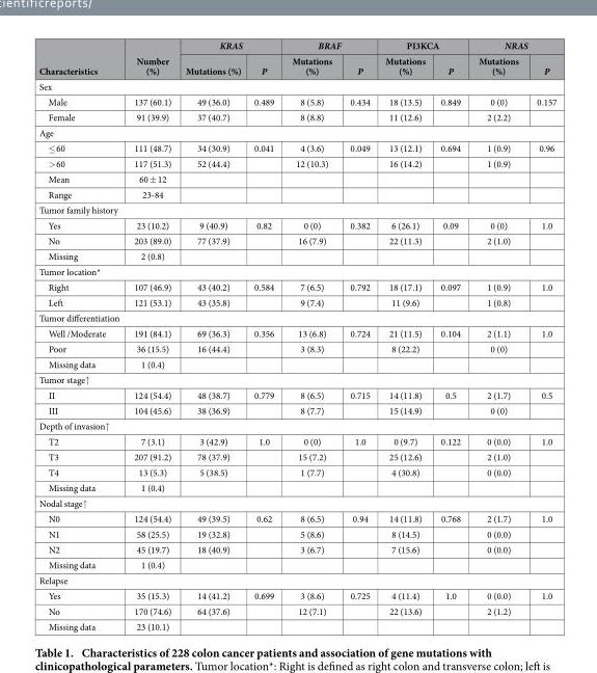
<table><thead><tr><td rowspan="2">Characteristics</td><td rowspan="2">Number (%)</td><td colspan="2">KRAS</td><td colspan="2">BRAF</td><td colspan="2">PI3KCA</td><td colspan="2">NRAS</td></tr><tr><td>Mutations (%)</td><td>P</td><td>Mutations (%)</td><td>P</td><td>Mutations (%)</td><td>P</td><td>Mutations (%)</td><td>P</td></tr></thead><tbody><tr><td colspan="10">Sex</td></tr><tr><td>Male</td><td>137 (60.1)</td><td>49 (36.0)</td><td>0.489</td><td>8 (5.8)</td><td>0.434</td><td>18 (13.5)</td><td>0.849</td><td>0 (0)</td><td>0.157</td></tr><tr><td>Female</td><td>91 (39.9)</td><td>37 (40.7)</td><td></td><td>8 (8.8)</td><td></td><td>11 (12.6)</td><td></td><td>2 (2.2)</td><td></td></tr><tr><td colspan="10">Age</td></tr><tr><td>≤ 60</td><td>111 (48.7)</td><td>34 (30.9)</td><td>0.041</td><td>4 (3.6)</td><td>0.049</td><td>13 (12.1)</td><td>0.694</td><td>1 (0.9)</td><td>0.96</td></tr><tr><td>&gt; 60</td><td>117 (51.3)</td><td>52 (44.4)</td><td></td><td>12 (10.3)</td><td></td><td>16 (14.2)</td><td></td><td>1 (0.9)</td><td></td></tr><tr><td>Mean</td><td>60 ± 12</td><td></td><td></td><td></td><td></td><td></td><td></td><td></td><td></td></tr><tr><td>Range</td><td>23-84</td><td></td><td></td><td></td><td></td><td></td><td></td><td></td><td></td></tr><tr><td colspan="10">Tumor family history</td></tr><tr><td>Yes</td><td>23 (10.2)</td><td>9 (40.9)</td><td>0.82</td><td>0 (0)</td><td>0.382</td><td>6 (26.1)</td><td>0.09</td><td>0 (0)</td><td>1.0</td></tr><tr><td>No</td><td>203 (89.0)</td><td>77 (37.9)</td><td></td><td>16 (7.9)</td><td></td><td>22 (11.3)</td><td></td><td>2 (1.0)</td><td></td></tr><tr><td>Missing</td><td>2 (0.8)</td><td></td><td></td><td></td><td></td><td></td><td></td><td></td><td></td></tr><tr><td colspan="10">Tumor location*</td></tr><tr><td>Right</td><td>107 (46.9)</td><td>43 (40.2)</td><td>0.584</td><td>7 (6.5)</td><td>0.792</td><td>18 (17.1)</td><td>0.097</td><td>1 (0.9)</td><td>1.0</td></tr><tr><td>Left</td><td>121 (53.1)</td><td>43 (35.8)</td><td></td><td>9 (7.4)</td><td></td><td>11 (9.6)</td><td></td><td>1 (0.8)</td><td></td></tr><tr><td colspan="10">Tumor differentiation</td></tr><tr><td>Well /Moderate</td><td>191 (84.1)</td><td>69 (36.3)</td><td>0.356</td><td>13 (6.8)</td><td>0.724</td><td>21 (11.5)</td><td>0.104</td><td>2 (1.1)</td><td>1.0</td></tr><tr><td>Poor</td><td>36 (15.5)</td><td>16 (44.4)</td><td></td><td>3 (8.3)</td><td></td><td>8 (22.2)</td><td></td><td>0 (0)</td><td></td></tr><tr><td>Missing data</td><td>1 (0.4)</td><td></td><td></td><td></td><td></td><td></td><td></td><td></td><td></td></tr><tr><td colspan="10">Tumor stage↑</td></tr><tr><td>II</td><td>124 (54.4)</td><td>48 (38.7)</td><td>0.779</td><td>8 (6.5)</td><td>0.715</td><td>14 (11.8)</td><td>0.5</td><td>2 (1.7)</td><td>0.5</td></tr><tr><td>III</td><td>104 (45.6)</td><td>38 (36.9)</td><td></td><td>8 (7.7)</td><td></td><td>15 (14.9)</td><td></td><td>0 (0)</td><td></td></tr><tr><td colspan="10">Depth of invasion↑</td></tr><tr><td>T2</td><td>7 (3.1)</td><td>3 (42.9)</td><td>1.0</td><td>0 (0)</td><td>1.0</td><td>0 (9.7)</td><td>0.122</td><td>0 (0.0)</td><td>1.0</td></tr><tr><td>T3</td><td>207 (91.2)</td><td>78 (37.9)</td><td></td><td>15 (7.2)</td><td></td><td>25 (12.6)</td><td></td><td>2 (1.0)</td><td></td></tr><tr><td>T4</td><td>13 (5.3)</td><td>5 (38.5)</td><td></td><td>1 (7.7)</td><td></td><td>4 (30.8)</td><td></td><td>0 (0.0)</td><td></td></tr><tr><td>Missing data</td><td>1 (0.4)</td><td></td><td></td><td></td><td></td><td></td><td></td><td></td><td></td></tr><tr><td colspan="10">Nodal stage↑</td></tr><tr><td>N0</td><td>124 (54.4)</td><td>49 (39.5)</td><td>0.62</td><td>8 (6.5)</td><td>0.94</td><td>14 (11.8)</td><td>0.768</td><td>2 (1.7)</td><td>1.0</td></tr><tr><td>N1</td><td>58 (25.5)</td><td>19 (32.8)</td><td></td><td>5 (8.6)</td><td></td><td>8 (14.5)</td><td></td><td>0 (0.0)</td><td></td></tr><tr><td>N2</td><td>45 (19.7)</td><td>18 (40.9)</td><td></td><td>3 (6.7)</td><td></td><td>7 (15.6)</td><td></td><td>0 (0.0)</td><td></td></tr><tr><td>Missing data</td><td>1 (0.4)</td><td></td><td></td><td></td><td></td><td></td><td></td><td></td><td></td></tr><tr><td colspan="10">Relapse</td></tr><tr><td>Yes</td><td>35 (15.3)</td><td>14 (41.2)</td><td>0.699</td><td>3 (8.6)</td><td>0.725</td><td>4 (11.4)</td><td>1.0</td><td>0 (0.0)</td><td>1.0</td></tr><tr><td>No</td><td>170 (74.6)</td><td>64 (37.6)</td><td></td><td>12 (7.1)</td><td></td><td>22 (13.6)</td><td></td><td>2 (1.2)</td><td></td></tr><tr><td>Missing data</td><td>23 (10.1)</td><td></td><td></td><td></td><td></td><td></td><td></td><td></td><td></td></tr></tbody></table>